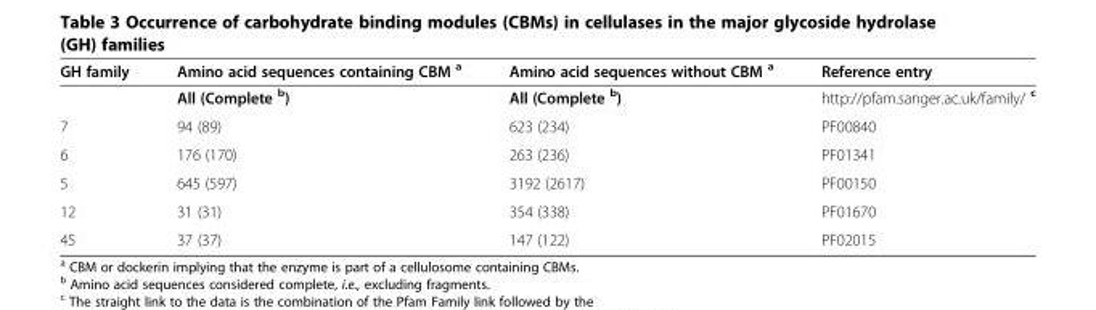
<table><thead><tr><td>GH family</td><td>Amino acid sequences containing CBM <sup>a</sup></td><td>Amino acid sequences without CBM <sup>a</sup></td><td>Reference entry</td></tr></thead><tbody><tr><td></td><td>All (Complete <sup>b</sup>)</td><td>All (Complete <sup>b</sup>)</td><td>http://pfam.sanger.ac.uk/family/ <sup>c</sup></td></tr><tr><td>7</td><td>94 (89)</td><td>623 (234)</td><td>PF00840</td></tr><tr><td>6</td><td>176 (170)</td><td>263 (236)</td><td>PF01341</td></tr><tr><td>5</td><td>645 (597)</td><td>3192 (2617)</td><td>PF00150</td></tr><tr><td>12</td><td>31 (31)</td><td>354 (338)</td><td>PF01670</td></tr><tr><td>45</td><td>37 (37)</td><td>147 (122)</td><td>PF02015</td></tr></tbody></table>